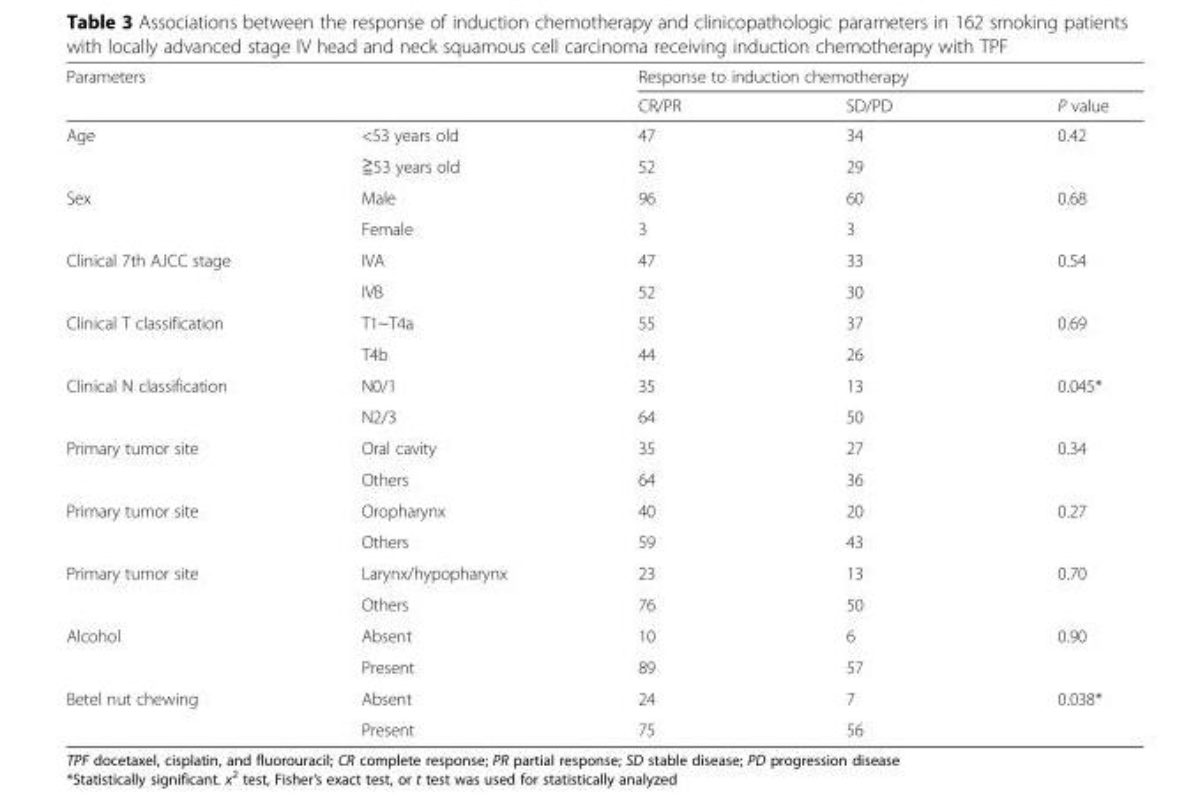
<table><thead><tr><td rowspan="2">Parameters</td><td rowspan="2"></td><td colspan="3">Response to induction chemotherapy</td></tr><tr><td>CR/PR</td><td>SD/PD</td><td>P value</td></tr></thead><tbody><tr><td rowspan="2">Age</td><td>&lt;53 years old</td><td>47</td><td>34</td><td>0.42</td></tr><tr><td>≧53 years old</td><td>52</td><td>29</td><td></td></tr><tr><td rowspan="2">Sex</td><td>Male</td><td>96</td><td>60</td><td>0.68</td></tr><tr><td>Female</td><td>3</td><td>3</td><td></td></tr><tr><td rowspan="2">Clinical 7th AJCC stage</td><td>IVA</td><td>47</td><td>33</td><td>0.54</td></tr><tr><td>IVB</td><td>52</td><td>30</td><td></td></tr><tr><td rowspan="2">Clinical T classification</td><td>T1~T4a</td><td>55</td><td>37</td><td>0.69</td></tr><tr><td>T4b</td><td>44</td><td>26</td><td></td></tr><tr><td rowspan="2">Clinical N classification</td><td>N0/1</td><td>35</td><td>13</td><td>0.045*</td></tr><tr><td>N2/3</td><td>64</td><td>50</td><td></td></tr><tr><td rowspan="2">Primary tumor site</td><td>Oral cavity</td><td>35</td><td>27</td><td>0.34</td></tr><tr><td>Others</td><td>64</td><td>36</td><td></td></tr><tr><td rowspan="2">Primary tumor site</td><td>Oropharynx</td><td>40</td><td>20</td><td>0.27</td></tr><tr><td>Others</td><td>59</td><td>43</td><td></td></tr><tr><td rowspan="2">Primary tumor site</td><td>Larynx/hypopharynx</td><td>23</td><td>13</td><td>0.70</td></tr><tr><td>Others</td><td>76</td><td>50</td><td></td></tr><tr><td rowspan="2">Alcohol</td><td>Absent</td><td>10</td><td>6</td><td>0.90</td></tr><tr><td>Present</td><td>89</td><td>57</td><td></td></tr><tr><td rowspan="2">Betel nut chewing</td><td>Absent</td><td>24</td><td>7</td><td>0.038*</td></tr><tr><td>Present</td><td>75</td><td>56</td><td></td></tr></tbody></table>